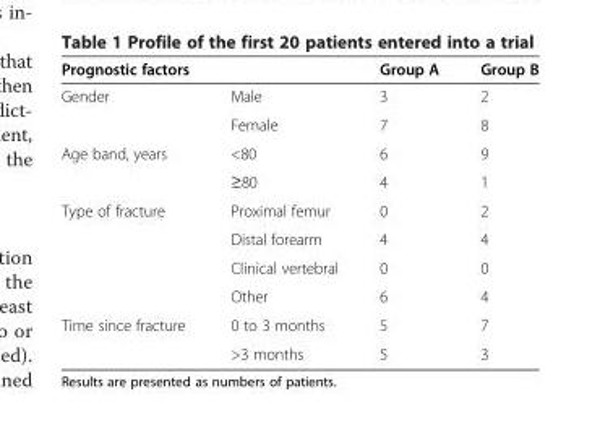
<table><thead><tr><td>Prognostic factors</td><td></td><td>Group A</td><td>Group B</td></tr></thead><tbody><tr><td rowspan="2">Gender</td><td>Male</td><td>3</td><td>2</td></tr><tr><td>Female</td><td>7</td><td>8</td></tr><tr><td rowspan="2">Age band, years</td><td>&lt;80</td><td>6</td><td>9</td></tr><tr><td>≥80</td><td>4</td><td>1</td></tr><tr><td rowspan="4">Type of fracture</td><td>Proximal femur</td><td>0</td><td>2</td></tr><tr><td>Distal forearm</td><td>4</td><td>4</td></tr><tr><td>Clinical vertebral</td><td>0</td><td>0</td></tr><tr><td>Other</td><td>6</td><td>4</td></tr><tr><td rowspan="2">Time since fracture</td><td>0 to 3 months</td><td>5</td><td>7</td></tr><tr><td>&gt;3 months</td><td>5</td><td>3</td></tr></tbody></table>